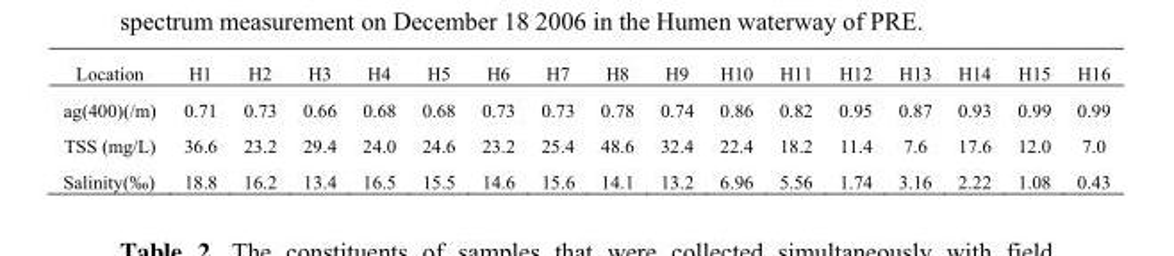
<table><thead><tr><td>Location</td><td>H1</td><td>H2</td><td>H3</td><td>H4</td><td>H5</td><td>H6</td><td>H7</td><td>H8</td><td>H9</td><td>H10</td><td>H11</td><td>H12</td><td>H13</td><td>H14</td><td>H15</td><td>H16</td></tr></thead><tbody><tr><td>ag(400)(/m)</td><td>0.71</td><td>0.73</td><td>0.66</td><td>0.68</td><td>0.68</td><td>0.73</td><td>0.73</td><td>0.78</td><td>0.74</td><td>0.86</td><td>0.82</td><td>0.95</td><td>0.87</td><td>0.93</td><td>0.99</td><td>0.99</td></tr><tr><td>TSS (mg/L)</td><td>36.6</td><td>23.2</td><td>29.4</td><td>24.0</td><td>24.6</td><td>23.2</td><td>25.4</td><td>48.6</td><td>32.4</td><td>22.4</td><td>18.2</td><td>11.4</td><td>7.6</td><td>17.6</td><td>12.0</td><td>7.0</td></tr><tr><td>Salinity(‰)</td><td>18.8</td><td>16.2</td><td>13.4</td><td>16.5</td><td>15.5</td><td>14.6</td><td>15.6</td><td>14.1</td><td>13.2</td><td>6.96</td><td>5.56</td><td>1.74</td><td>3.16</td><td>2.22</td><td>1.08</td><td>0.43</td></tr></tbody></table>